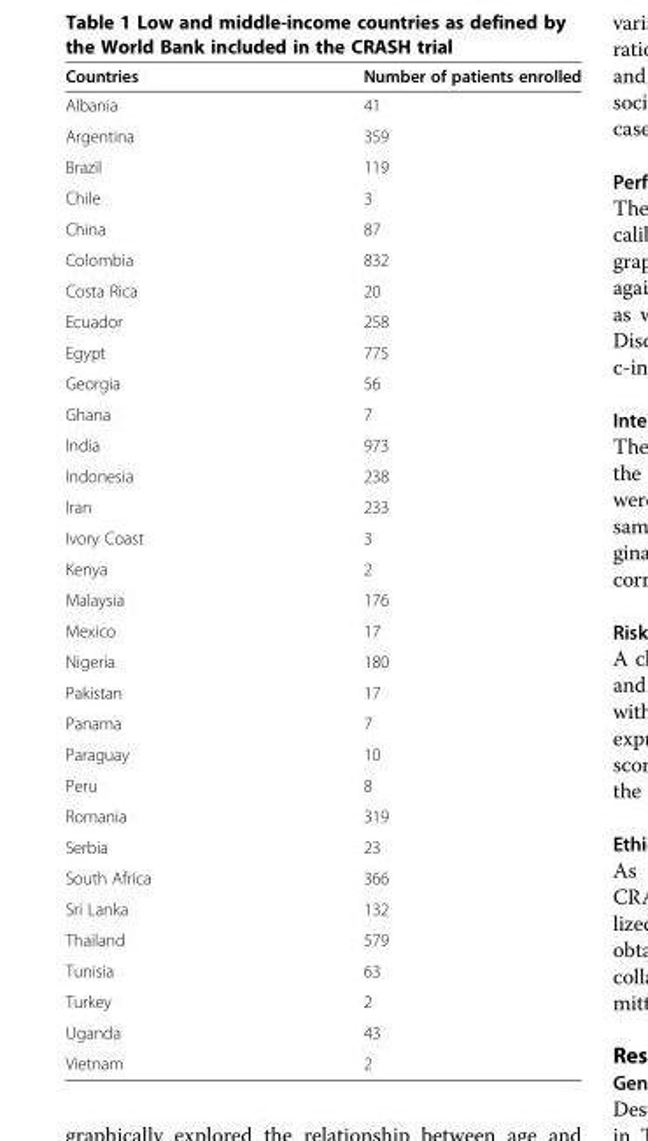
<table><thead><tr><td>Countries</td><td>Number of patients enrolled</td></tr></thead><tbody><tr><td>Albania</td><td>41</td></tr><tr><td>Argentina</td><td>359</td></tr><tr><td>Brazil</td><td>119</td></tr><tr><td>Chile</td><td>3</td></tr><tr><td>China</td><td>87</td></tr><tr><td>Colombia</td><td>832</td></tr><tr><td>Costa Rica</td><td>20</td></tr><tr><td>Ecuador</td><td>258</td></tr><tr><td>Egypt</td><td>775</td></tr><tr><td>Georgia</td><td>56</td></tr><tr><td>Ghana</td><td>7</td></tr><tr><td>India</td><td>973</td></tr><tr><td>Indonesia</td><td>238</td></tr><tr><td>Iran</td><td>233</td></tr><tr><td>Ivory Coast</td><td>3</td></tr><tr><td>Kenya</td><td>2</td></tr><tr><td>Malaysia</td><td>176</td></tr><tr><td>Mexico</td><td>17</td></tr><tr><td>Nigeria</td><td>180</td></tr><tr><td>Pakistan</td><td>17</td></tr><tr><td>Panama</td><td>7</td></tr><tr><td>Paraguay</td><td>10</td></tr><tr><td>Peru</td><td>8</td></tr><tr><td>Romania</td><td>319</td></tr><tr><td>Serbia</td><td>23</td></tr><tr><td>South Africa</td><td>366</td></tr><tr><td>Sri Lanka</td><td>132</td></tr><tr><td>Thailand</td><td>579</td></tr><tr><td>Tunisia</td><td>63</td></tr><tr><td>Turkey</td><td>2</td></tr><tr><td>Uganda</td><td>43</td></tr><tr><td>Vietnam</td><td>2</td></tr></tbody></table>